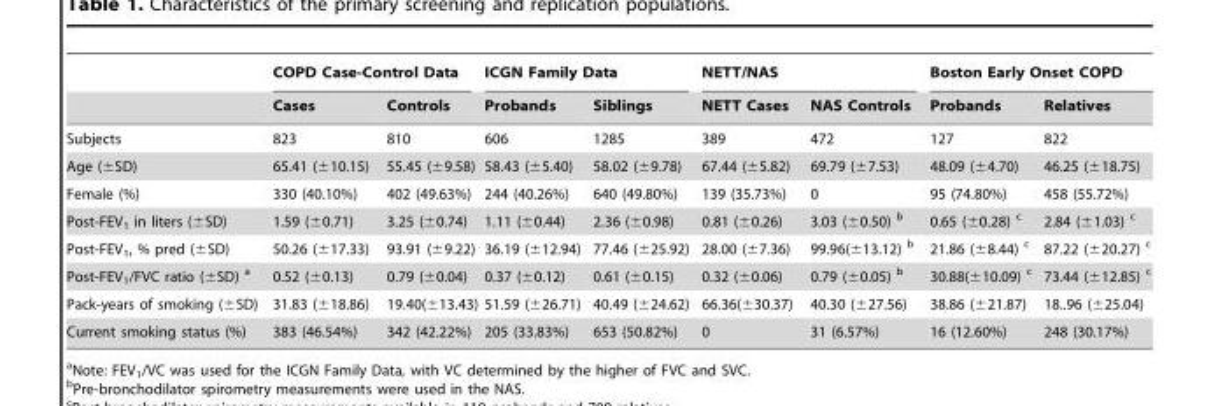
<table><thead><tr><td rowspan="2"></td><td colspan="2">COPD Case-Control Data</td><td colspan="2">ICGN Family Data</td><td colspan="2">NETT/NAS</td><td colspan="2">Boston Early Onset COPD</td></tr><tr><td>Cases</td><td>Controls</td><td>Probands</td><td>Siblings</td><td>NETT Cases</td><td>NAS Controls</td><td>Probands</td><td>Relatives</td></tr></thead><tbody><tr><td>Subjects</td><td>823</td><td>810</td><td>606</td><td>1285</td><td>389</td><td>472</td><td>127</td><td>822</td></tr><tr><td>Age (±SD)</td><td>65.41 (±10.15)</td><td>55.45 (±9.58)</td><td>58.43 (±5.40)</td><td>58.02 (±9.78)</td><td>67.44 (±5.82)</td><td>69.79 (±7.53)</td><td>48.09 (±4.70)</td><td>46.25 (±18.75)</td></tr><tr><td>Female (%)</td><td>330 (40.10%)</td><td>402 (49.63%)</td><td>244 (40.26%)</td><td>640 (49.80%)</td><td>139 (35.73%)</td><td>0</td><td>95 (74.80%)</td><td>458 (55.72%)</td></tr><tr><td>Post-FEV<sub>1</sub> in liters (±SD)</td><td>1.59 (±0.71)</td><td>3.25 (±0.74)</td><td>1.11 (±0.44)</td><td>2.36 (±0.98)</td><td>0.81 (±0.26)</td><td>3.03 (±0.50) b</td><td>0.65 (±0.28) c</td><td>2.84 (±1.03) c</td></tr><tr><td>Post-FEV<sub>1</sub>, % pred (±SD)</td><td>50.26 (±17.33)</td><td>93.91 (±9.22)</td><td>36.19 (±12.94)</td><td>77.46 (±25.92)</td><td>28.00 (±7.36)</td><td>99.96(±13.12) b</td><td>21.86 (±8.44) c</td><td>87.22 (±20.27) c</td></tr><tr><td>Post-FEV<sub>1</sub>/FVC ratio (±SD) a</td><td>0.52 (±0.13)</td><td>0.79 (±0.04)</td><td>0.37 (±0.12)</td><td>0.61 (±0.15)</td><td>0.32 (±0.06)</td><td>0.79 (±0.05) b</td><td>30.88(±10.09) c</td><td>73.44 (±12.85) c</td></tr><tr><td>Pack-years of smoking (±SD)</td><td>31.83 (±18.86)</td><td>19.40(±13.43)</td><td>51.59 (±26.71)</td><td>40.49 (±24.62)</td><td>66.36(±30.37)</td><td>40.30 (±27.56)</td><td>38.86 (±21.87)</td><td>18..96 (±25.04)</td></tr><tr><td>Current smoking status (%)</td><td>383 (46.54%)</td><td>342 (42.22%)</td><td>205 (33.83%)</td><td>653 (50.82%)</td><td>0</td><td>31 (6.57%)</td><td>16 (12.60%)</td><td>248 (30.17%)</td></tr></tbody></table>